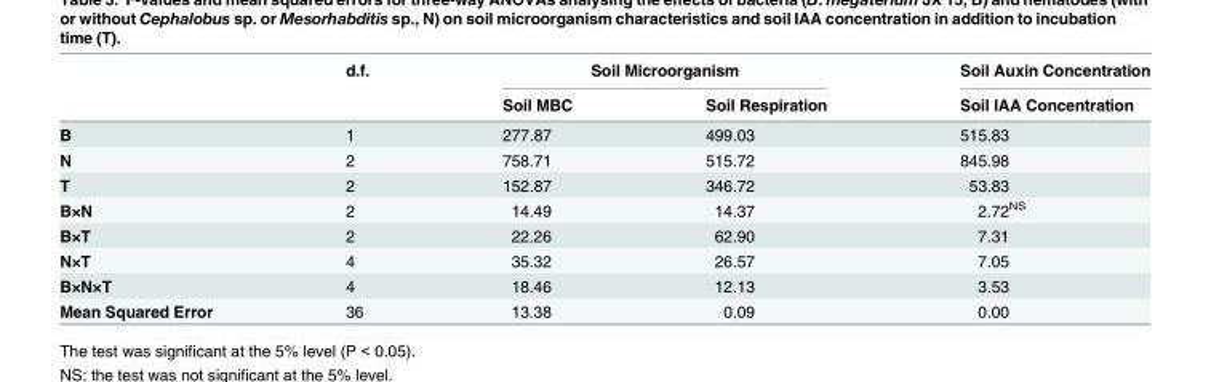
<table><thead><tr><td rowspan="2"></td><td rowspan="2">d.f.</td><td colspan="2">Soil Microorganism</td><td rowspan="2">Soil Auxin Concentration Soil IAA Concentration</td></tr><tr><td>Soil MBC</td><td>Soil Respiration</td></tr></thead><tbody><tr><td>B</td><td>1</td><td>277.87</td><td>499.03</td><td>515.83</td></tr><tr><td>N</td><td>2</td><td>758.71</td><td>515.72</td><td>845.98</td></tr><tr><td>T</td><td>2</td><td>152.87</td><td>346.72</td><td>53.83</td></tr><tr><td>B×N</td><td>2</td><td>14.49</td><td>14.37</td><td>2.72<sup>NS</sup></td></tr><tr><td>B×T</td><td>2</td><td>22.26</td><td>62.90</td><td>7.31</td></tr><tr><td>N×T</td><td>4</td><td>35.32</td><td>26.57</td><td>7.05</td></tr><tr><td>B×N×T</td><td>4</td><td>18.46</td><td>12.13</td><td>3.53</td></tr><tr><td>Mean Squared Error</td><td>36</td><td>13.38</td><td>0.09</td><td>0.00</td></tr></tbody></table>